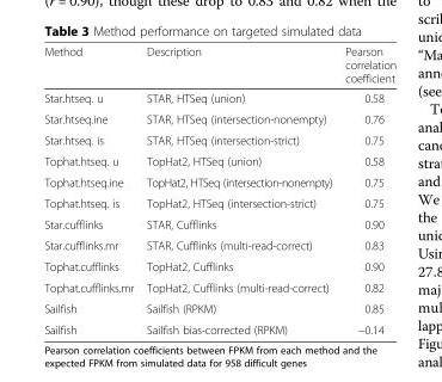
<table><thead><tr><td>Method</td><td>Description</td><td>Pearson correlation coefficient</td></tr></thead><tbody><tr><td>Star.htseq. u</td><td>STAR, HTSeq (union)</td><td>0.58</td></tr><tr><td>Star.htseq.ine</td><td>STAR, HTSeq (intersection-nonempty)</td><td>0.76</td></tr><tr><td>Star.htseq. is</td><td>STAR, HTSeq (intersection-strict)</td><td>0.75</td></tr><tr><td>Tophat.htseq. u</td><td>TopHat2, HTSeq (union)</td><td>0.58</td></tr><tr><td>Tophat.htseq.ine</td><td>TopHat2, HTSeq (intersection-nonempty)</td><td>0.75</td></tr><tr><td>Tophat.htseq. is</td><td>TopHat2, HTSeq (intersection-strict)</td><td>0.75</td></tr><tr><td>Star.cufflinks</td><td>STAR, Cufflinks</td><td>0.90</td></tr><tr><td>Star.cufflinks.mr</td><td>STAR, Cufflinks (multi-read-correct)</td><td>0.83</td></tr><tr><td>Tophat.cufflinks</td><td>TopHat2, Cufflinks</td><td>0.90</td></tr><tr><td>Tophat.cufflinks.mr</td><td>TopHat2, Cufflinks (multi-read-correct)</td><td>0.82</td></tr><tr><td>Sailfish</td><td>Sailfish (RPKM)</td><td>0.85</td></tr><tr><td>Sailfish</td><td>Sailfish bias-corrected (RPKM)</td><td>−0.14</td></tr></tbody></table>